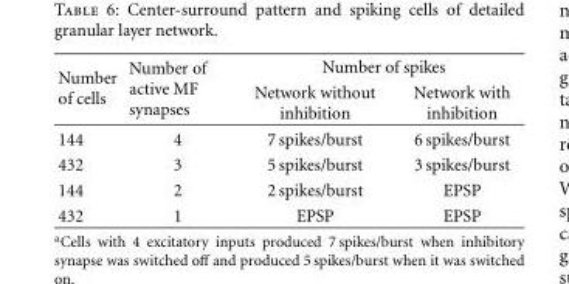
<table><thead><tr><td rowspan="2">Number of cells</td><td rowspan="2">Number of active MF synapses</td><td colspan="2">Number of spikes</td></tr><tr><td>Network without inhibition</td><td>Network with inhibition</td></tr></thead><tbody><tr><td>144</td><td>4</td><td>7 spikes/burst</td><td>6 spikes/burst</td></tr><tr><td>432</td><td>3</td><td>5 spikes/burst</td><td>3 spikes/burst</td></tr><tr><td>144</td><td>2</td><td>2 spikes/burst</td><td>EPSP</td></tr><tr><td>432</td><td>1</td><td>EPSP</td><td>EPSP</td></tr></tbody></table>